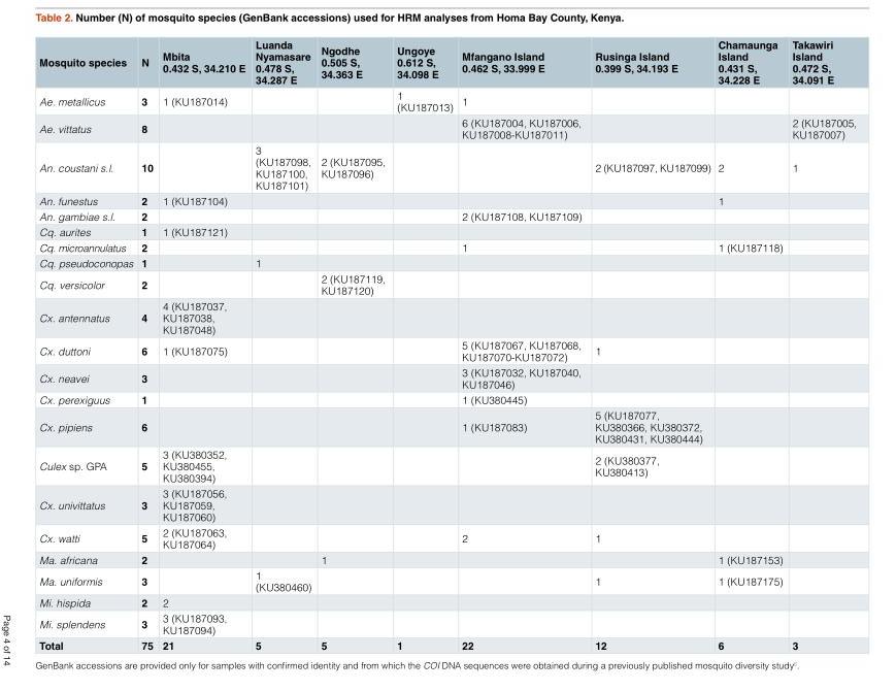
<table><thead><tr><td>Mosquito species</td><td>N</td><td>Mbita 0.432 S, 34.210 E</td><td>Luanda Nyamasare 0.478 S, 34.287 E</td><td>Ngodhe 0.505 S, 34.363 E</td><td>Ungoye 0.612 S, 34.098 E</td><td>Mfangano Island 0.462 S, 33.999 E</td><td>Rusinga Island 0.399 S, 34.193 E</td><td>Chamaunga Island 0.431 S, 34.228 E</td><td>Takawiri Island 0.472 S, 34.091 E</td></tr></thead><tbody><tr><td>Ae. metallicus</td><td>3</td><td>1 (KU187014)</td><td></td><td></td><td>1 (KU187013)</td><td>1</td><td></td><td></td><td></td></tr><tr><td>Ae. vittatus</td><td>8</td><td></td><td></td><td></td><td></td><td>6 (KU187004, KU187006, KU187008-KU187011)</td><td></td><td></td><td>2 (KU187005, KU187007)</td></tr><tr><td>An. coustani s.l.</td><td>10</td><td></td><td>3 (KU187098, KU187100, KU187101)</td><td>2 (KU187095, KU187096)</td><td></td><td></td><td>2 (KU187097, KU187099)</td><td>2</td><td>1</td></tr><tr><td>An. funestus</td><td>2</td><td>1 (KU187104)</td><td></td><td></td><td></td><td></td><td></td><td>1</td><td></td></tr><tr><td>An. gambiae s.l.</td><td>2</td><td></td><td></td><td></td><td></td><td>2 (KU187108, KU187109)</td><td></td><td></td><td></td></tr><tr><td>Cq. aurites</td><td>1</td><td>1 (KU187121)</td><td></td><td></td><td></td><td></td><td></td><td></td><td></td></tr><tr><td>Cq. microannulatus</td><td>2</td><td></td><td></td><td></td><td></td><td>1</td><td></td><td>1 (KU187118)</td><td></td></tr><tr><td>Cq. pseudoconopas</td><td>1</td><td></td><td>1</td><td></td><td></td><td></td><td></td><td></td><td></td></tr><tr><td>Cq. versicolor</td><td>2</td><td></td><td></td><td>2 (KU187119, KU187120)</td><td></td><td></td><td></td><td></td><td></td></tr><tr><td>Cx. antennatus</td><td>4</td><td>4 (KU187037, KU187038, KU187048)</td><td></td><td></td><td></td><td></td><td></td><td></td><td></td></tr><tr><td>Cx. duttoni</td><td>6</td><td>1 (KU187075)</td><td></td><td></td><td></td><td>5 (KU187067, KU187068, KU187070-KU187072)</td><td>1</td><td></td><td></td></tr><tr><td>Cx. neavei</td><td>3</td><td></td><td></td><td></td><td></td><td>3 (KU187032, KU187040, KU187046)</td><td></td><td></td><td></td></tr><tr><td>Cx. perexiguus</td><td>1</td><td></td><td></td><td></td><td></td><td>1 (KU380445)</td><td></td><td></td><td></td></tr><tr><td>Cx. pipiens</td><td>6</td><td></td><td></td><td></td><td></td><td>1 (KU187083)</td><td>5 (KU187077, KU380366, KU380372, KU380431, KU380444)</td><td></td><td></td></tr><tr><td>Culex sp. GPA</td><td>5</td><td>3 (KU380352, KU380455, KU380394)</td><td></td><td></td><td></td><td></td><td>2 (KU380377, KU380413)</td><td></td><td></td></tr><tr><td>Cx. univittatus</td><td>3</td><td>3 (KU187056, KU187059, KU187060)</td><td></td><td></td><td></td><td></td><td></td><td></td><td></td></tr><tr><td>Cx. watti</td><td>5</td><td>2 (KU187063, KU187064)</td><td></td><td></td><td></td><td>2</td><td>1</td><td></td><td></td></tr><tr><td>Ma. africana</td><td>2</td><td></td><td></td><td>1</td><td></td><td></td><td></td><td>1 (KU187153)</td><td></td></tr><tr><td>Ma. uniformis</td><td>3</td><td></td><td>1 (KU380460)</td><td></td><td></td><td></td><td>1</td><td>1 (KU187175)</td><td></td></tr><tr><td>Mi. hispida</td><td>2</td><td>2</td><td></td><td></td><td></td><td></td><td></td><td></td><td></td></tr><tr><td>Mi. splendens</td><td>3</td><td>3 (KU187093, KU187094)</td><td></td><td></td><td></td><td></td><td></td><td></td><td></td></tr><tr><td>Total</td><td>75</td><td>21</td><td>5</td><td>5</td><td>1</td><td>22</td><td>12</td><td>6</td><td>3</td></tr></tbody></table>